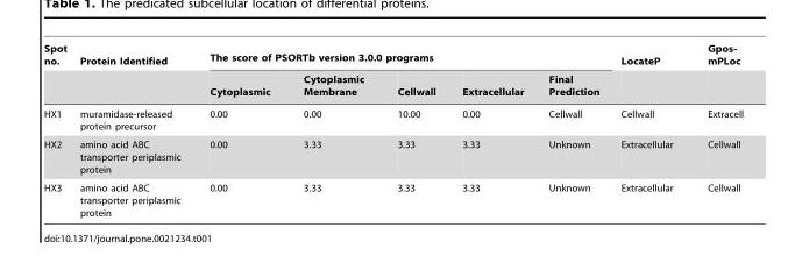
<table><thead><tr><td rowspan="2">Spot no.</td><td rowspan="2">Protein Identified</td><td colspan="5">The score of PSORTb version 3.0.0 programs</td><td rowspan="2">LocateP</td><td rowspan="2">Gpos- mPLoc</td></tr><tr><td>Cytoplasmic</td><td>Cytoplasmic Membrane</td><td>Cellwall</td><td>Extracellular</td><td>Final Prediction</td></tr></thead><tbody><tr><td>HX1</td><td>muramidase-released protein precursor</td><td>0.00</td><td>0.00</td><td>10.00</td><td>0.00</td><td>Cellwall</td><td>Cellwall</td><td>Extracell</td></tr><tr><td>HX2</td><td>amino acid ABC transporter periplasmic protein</td><td>0.00</td><td>3.33</td><td>3.33</td><td>3.33</td><td>Unknown</td><td>Extracellular</td><td>Cellwall</td></tr><tr><td>HX3</td><td>amino acid ABC transporter periplasmic protein</td><td>0.00</td><td>3.33</td><td>3.33</td><td>3.33</td><td>Unknown</td><td>Extracellular</td><td>Cellwall</td></tr></tbody></table>